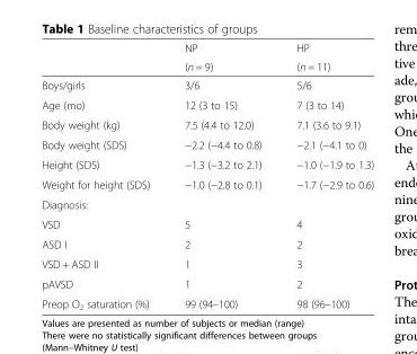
<table><thead><tr><td rowspan="2"></td><td rowspan="2">NP (n = 9)</td><td rowspan="2">HP (n = 11)</td></tr><tr></tr></thead><tbody><tr><td>Boys/girls</td><td>3/6</td><td>5/6</td></tr><tr><td>Age (mo)</td><td>12 (3 to 15)</td><td>7 (3 to 14)</td></tr><tr><td>Body weight (kg)</td><td>7.5 (4.4 to 12.0)</td><td>7.1 (3.6 to 9.1)</td></tr><tr><td>Body weight (SDS)</td><td>−2.2 (−4.4 to 0.8)</td><td>−2.1 (−4.1 to 0)</td></tr><tr><td>Height (SDS)</td><td>−1.3 (−3.2 to 2.1)</td><td>−1.0 (−1.9 to 1.3)</td></tr><tr><td>Weight for height (SDS)</td><td>−1.0 (−2.8 to 0.1)</td><td>−1.7 (−2.9 to 0.6)</td></tr><tr><td colspan="3">Diagnosis:</td></tr><tr><td>VSD</td><td>5</td><td>4</td></tr><tr><td>ASD I</td><td>2</td><td>2</td></tr><tr><td>VSD + ASD II</td><td>1</td><td>3</td></tr><tr><td>pAVSD</td><td>1</td><td>2</td></tr><tr><td>Preop O<sub>2</sub> saturation (%)</td><td>99 (94–100)</td><td>98 (96–100)</td></tr></tbody></table>